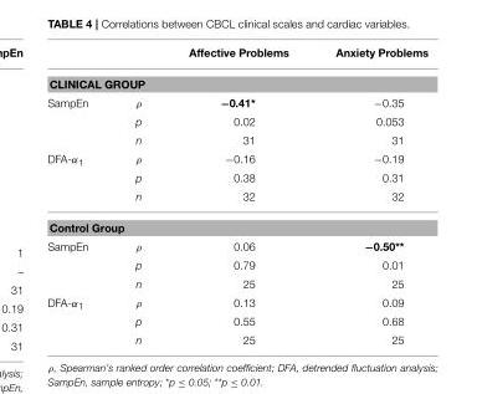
<table><thead><tr><td></td><td></td><td>Affective Problems</td><td>Anxiety Problems</td></tr></thead><tbody><tr><td colspan="4">CLINICAL GROUP</td></tr><tr><td rowspan="3">SampEn</td><td>ρ</td><td>−0.41*</td><td>−0.35</td></tr><tr><td>p</td><td>0.02</td><td>0.053</td></tr><tr><td>n</td><td>31</td><td>31</td></tr><tr><td rowspan="3">DFA-α<sub>1</sub></td><td>ρ</td><td>−0.16</td><td>−0.19</td></tr><tr><td>p</td><td>0.38</td><td>0.31</td></tr><tr><td>n</td><td>32</td><td>32</td></tr><tr><td colspan="4">Control Group</td></tr><tr><td rowspan="3">SampEn</td><td>ρ</td><td>0.06</td><td>−0.50**</td></tr><tr><td>p</td><td>0.79</td><td>0.01</td></tr><tr><td>n</td><td>25</td><td>25</td></tr><tr><td rowspan="3">DFA-α<sub>1</sub></td><td>ρ</td><td>0.13</td><td>0.09</td></tr><tr><td>p</td><td>0.55</td><td>0.68</td></tr><tr><td>n</td><td>25</td><td>25</td></tr></tbody></table>